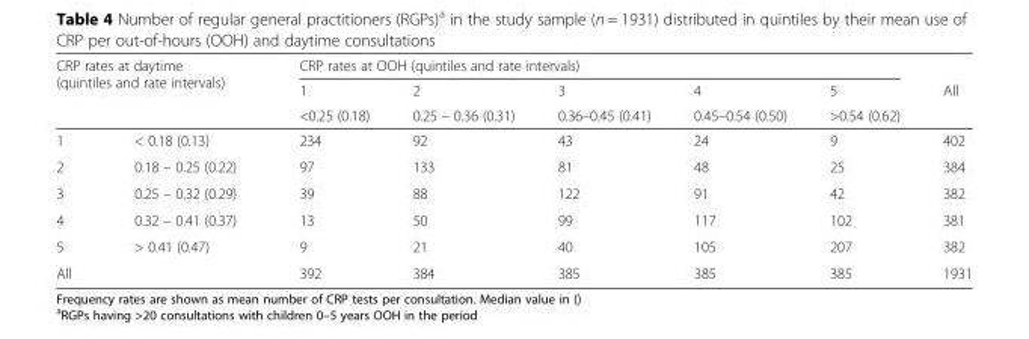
<table><thead><tr><td rowspan="3" colspan="2">CRP rates at daytime (quintiles and rate intervals)</td><td colspan="5">CRP rates at OOH (quintiles and rate intervals)</td><td rowspan="4">All 402</td></tr><tr><td rowspan="3">1 &lt;0.25 (0.18) 234</td><td rowspan="3">2 0.25 – 0.36 (0.31) 92</td><td rowspan="3">3 0.36–0.45 (0.41) 43</td><td rowspan="3">4 0.45–0.54 (0.50) 24</td><td rowspan="3">5 &gt;0.54 (0.62) 9</td></tr><tr></tr><tr><td>1</td><td>&lt; 0.18 (0.13)</td></tr></thead><tbody><tr><td>2</td><td>0.18 – 0.25 (0.22)</td><td>97</td><td>133</td><td>81</td><td>48</td><td>25</td><td>384</td></tr><tr><td>3</td><td>0.25 – 0.32 (0.29)</td><td>39</td><td>88</td><td>122</td><td>91</td><td>42</td><td>382</td></tr><tr><td>4</td><td>0.32 – 0.41 (0.37)</td><td>13</td><td>50</td><td>99</td><td>117</td><td>102</td><td>381</td></tr><tr><td>5</td><td>&gt; 0.41 (0.47)</td><td>9</td><td>21</td><td>40</td><td>105</td><td>207</td><td>382</td></tr><tr><td>All</td><td></td><td>392</td><td>384</td><td>385</td><td>385</td><td>385</td><td>1931</td></tr></tbody></table>